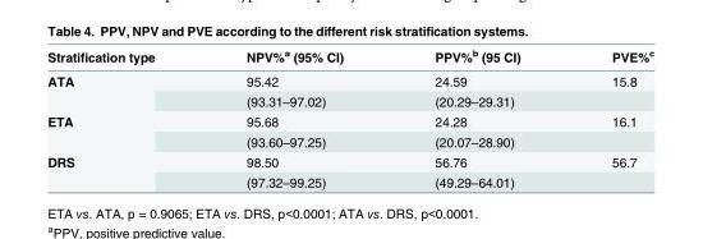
<table><thead><tr><td>Stratification type</td><td>NPV%<sup>a</sup> (95% CI)</td><td>PPV%<sup>b</sup> (95 CI)</td><td>PVE%<sup>c</sup></td></tr></thead><tbody><tr><td rowspan="2">ATA</td><td>95.42</td><td>24.59</td><td>15.8</td></tr><tr><td>(93.31–97.02)</td><td>(20.29–29.31)</td><td></td></tr><tr><td rowspan="2">ETA</td><td>95.68</td><td>24.28</td><td>16.1</td></tr><tr><td>(93.60–97.25)</td><td>(20.07–28.90)</td><td></td></tr><tr><td rowspan="2">DRS</td><td>98.50</td><td>56.76</td><td>56.7</td></tr><tr><td>(97.32–99.25)</td><td>(49.29–64.01)</td><td></td></tr></tbody></table>